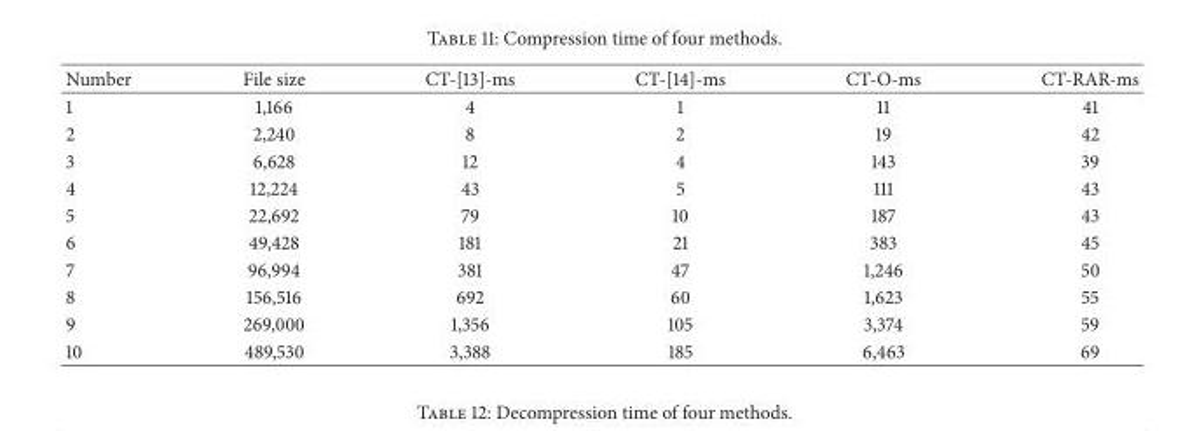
<table><thead><tr><td>Number</td><td>File size</td><td>CT-[13]-ms</td><td>CT-[14]-ms</td><td>CT-O-ms</td><td>CT-RAR-ms</td></tr></thead><tbody><tr><td>1</td><td>1,166</td><td>4</td><td>1</td><td>11</td><td>41</td></tr><tr><td>2</td><td>2,240</td><td>8</td><td>2</td><td>19</td><td>42</td></tr><tr><td>3</td><td>6,628</td><td>12</td><td>4</td><td>143</td><td>39</td></tr><tr><td>4</td><td>12,224</td><td>43</td><td>5</td><td>111</td><td>43</td></tr><tr><td>5</td><td>22,692</td><td>79</td><td>10</td><td>187</td><td>43</td></tr><tr><td>6</td><td>49,428</td><td>181</td><td>21</td><td>383</td><td>45</td></tr><tr><td>7</td><td>96,994</td><td>381</td><td>47</td><td>1,246</td><td>50</td></tr><tr><td>8</td><td>156,516</td><td>692</td><td>60</td><td>1,623</td><td>55</td></tr><tr><td>9</td><td>269,000</td><td>1,356</td><td>105</td><td>3,374</td><td>59</td></tr><tr><td>10</td><td>489,530</td><td>3,388</td><td>185</td><td>6,463</td><td>69</td></tr></tbody></table>